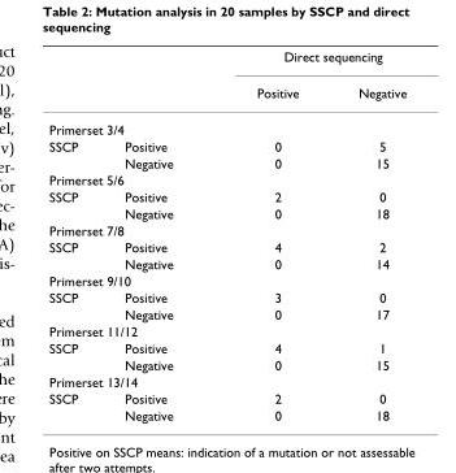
<table><thead><tr><td rowspan="2"></td><td rowspan="2"></td><td colspan="2">Direct sequencing</td></tr><tr><td>Positive</td><td>Negative</td></tr></thead><tbody><tr><td colspan="4">Primerset 3/4</td></tr><tr><td rowspan="2">SSCP</td><td>Positive</td><td>0</td><td>5</td></tr><tr><td>Negative</td><td>0</td><td>15</td></tr><tr><td colspan="4">Primerset 5/6</td></tr><tr><td rowspan="2">SSCP</td><td>Positive</td><td>2</td><td>0</td></tr><tr><td>Negative</td><td>0</td><td>18</td></tr><tr><td colspan="4">Primerset 7/8</td></tr><tr><td rowspan="2">SSCP</td><td>Positive</td><td>4</td><td>2</td></tr><tr><td>Negative</td><td>0</td><td>14</td></tr><tr><td colspan="4">Primerset 9/10</td></tr><tr><td rowspan="2">SSCP</td><td>Positive</td><td>3</td><td>0</td></tr><tr><td>Negative</td><td>0</td><td>17</td></tr><tr><td colspan="4">Primerset 11/12</td></tr><tr><td rowspan="2">SSCP</td><td>Positive</td><td>4</td><td>1</td></tr><tr><td>Negative</td><td>0</td><td>15</td></tr><tr><td colspan="4">Primerset 13/14</td></tr><tr><td rowspan="2">SSCP</td><td>Positive</td><td>2</td><td>0</td></tr><tr><td>Negative</td><td>0</td><td>18</td></tr></tbody></table>